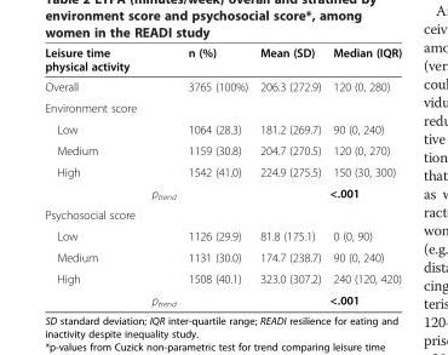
<table><thead><tr><td>Leisure time physical activity</td><td>n (%)</td><td>Mean (SD)</td><td>Median (IQR)</td></tr></thead><tbody><tr><td>Overall</td><td>3765 (100%)</td><td>206.3 (272.9)</td><td>120 (0, 280)</td></tr><tr><td colspan="4">Environment score</td></tr><tr><td>Low</td><td>1064 (28.3)</td><td>181.2 (269.7)</td><td>90 (0, 240)</td></tr><tr><td>Medium</td><td>1159 (30.8)</td><td>204.7 (270.5)</td><td>120 (0, 270)</td></tr><tr><td>High</td><td>1542 (41.0)</td><td>224.9 (275.5)</td><td>150 (30, 300)</td></tr><tr><td>p<sub>trend</sub></td><td></td><td colspan="2">&lt;.001</td></tr><tr><td colspan="4">Psychosocial score</td></tr><tr><td>Low</td><td>1126 (29.9)</td><td>81.8 (175.1)</td><td>0 (0, 90)</td></tr><tr><td>Medium</td><td>1131 (30.0)</td><td>174.7 (238.7)</td><td>90 (0, 240)</td></tr><tr><td>High</td><td>1508 (40.1)</td><td>323.0 (307.2)</td><td>240 (120, 420)</td></tr><tr><td>p<sub>trend</sub></td><td></td><td colspan="2">&lt;.001</td></tr></tbody></table>